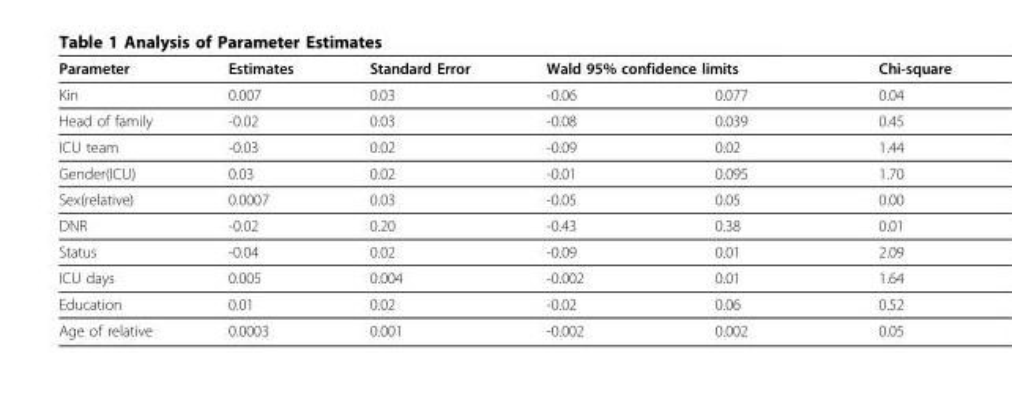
<table><thead><tr><td rowspan="2">Parameter Kin</td><td rowspan="2">Estimates 0.007</td><td rowspan="2">Standard Error 0.03</td><td colspan="2">Wald 95% confidence limits</td><td rowspan="2">Chi-square 0.04</td></tr><tr><td>-0.06</td><td>0.077</td></tr></thead><tbody><tr><td>Head of family</td><td>-0.02</td><td>0.03</td><td>-0.08</td><td>0.039</td><td>0.45</td></tr><tr><td>ICU team</td><td>-0.03</td><td>0.02</td><td>-0.09</td><td>0.02</td><td>1.44</td></tr><tr><td>Gender(ICU)</td><td>0.03</td><td>0.02</td><td>-0.01</td><td>0.095</td><td>1.70</td></tr><tr><td>Sex(relative)</td><td>0.0007</td><td>0.03</td><td>-0.05</td><td>0.05</td><td>0.00</td></tr><tr><td>DNR</td><td>-0.02</td><td>0.20</td><td>-0.43</td><td>0.38</td><td>0.01</td></tr><tr><td>Status</td><td>-0.04</td><td>0.02</td><td>-0.09</td><td>0.01</td><td>2.09</td></tr><tr><td>ICU days</td><td>0.005</td><td>0.004</td><td>-0.002</td><td>0.01</td><td>1.64</td></tr><tr><td>Education</td><td>0.01</td><td>0.02</td><td>-0.02</td><td>0.06</td><td>0.52</td></tr><tr><td>Age of relative</td><td>0.0003</td><td>0.001</td><td>-0.002</td><td>0.002</td><td>0.05</td></tr></tbody></table>